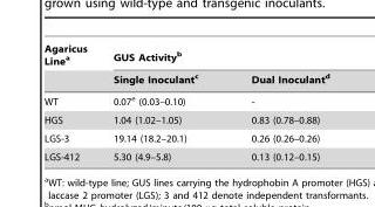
<table><thead><tr><td rowspan="2">Agaricus Line<sup>a</sup></td><td colspan="2">GUS Activity<sup>b</sup></td></tr><tr><td>Single Inoculant<sup>c</sup></td><td>Dual Inoculant<sup>d</sup></td></tr></thead><tbody><tr><td>WT</td><td>0.07<sup>e</sup> (0.03–0.10)</td><td>-</td></tr><tr><td>HGS</td><td>1.04 (1.02–1.05)</td><td>0.83 (0.78–0.88)</td></tr><tr><td>LGS-3</td><td>19.14 (18.2–20.1)</td><td>0.26 (0.26–0.26)</td></tr><tr><td>LGS-412</td><td>5.30 (4.9–5.8)</td><td>0.13 (0.12–0.15)</td></tr></tbody></table>